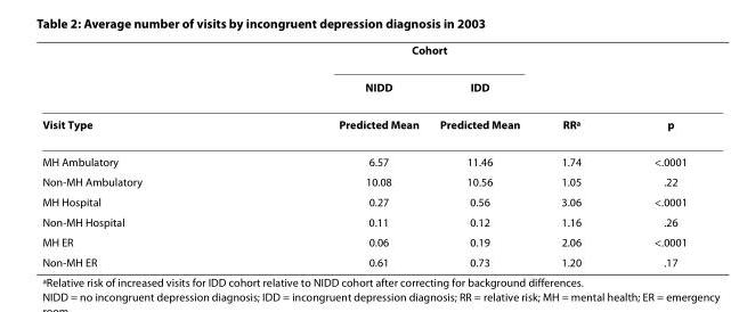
<table><thead><tr><td rowspan="2"></td><td colspan="2">Cohort</td><td rowspan="2"></td><td rowspan="2"></td></tr><tr><td>NIDD</td><td>IDD</td></tr></thead><tbody><tr><td>Visit Type</td><td>Predicted Mean</td><td>Predicted Mean</td><td>RR<sup>a</sup></td><td>p</td></tr><tr><td>MH Ambulatory</td><td>6.57</td><td>11.46</td><td>1.74</td><td>&lt;.0001</td></tr><tr><td>Non-MH Ambulatory</td><td>10.08</td><td>10.56</td><td>1.05</td><td>.22</td></tr><tr><td>MH Hospital</td><td>0.27</td><td>0.56</td><td>3.06</td><td>&lt;.0001</td></tr><tr><td>Non-MH Hospital</td><td>0.11</td><td>0.12</td><td>1.16</td><td>.26</td></tr><tr><td>MH ER</td><td>0.06</td><td>0.19</td><td>2.06</td><td>&lt;.0001</td></tr><tr><td>Non-MH ER</td><td>0.61</td><td>0.73</td><td>1.20</td><td>.17</td></tr></tbody></table>